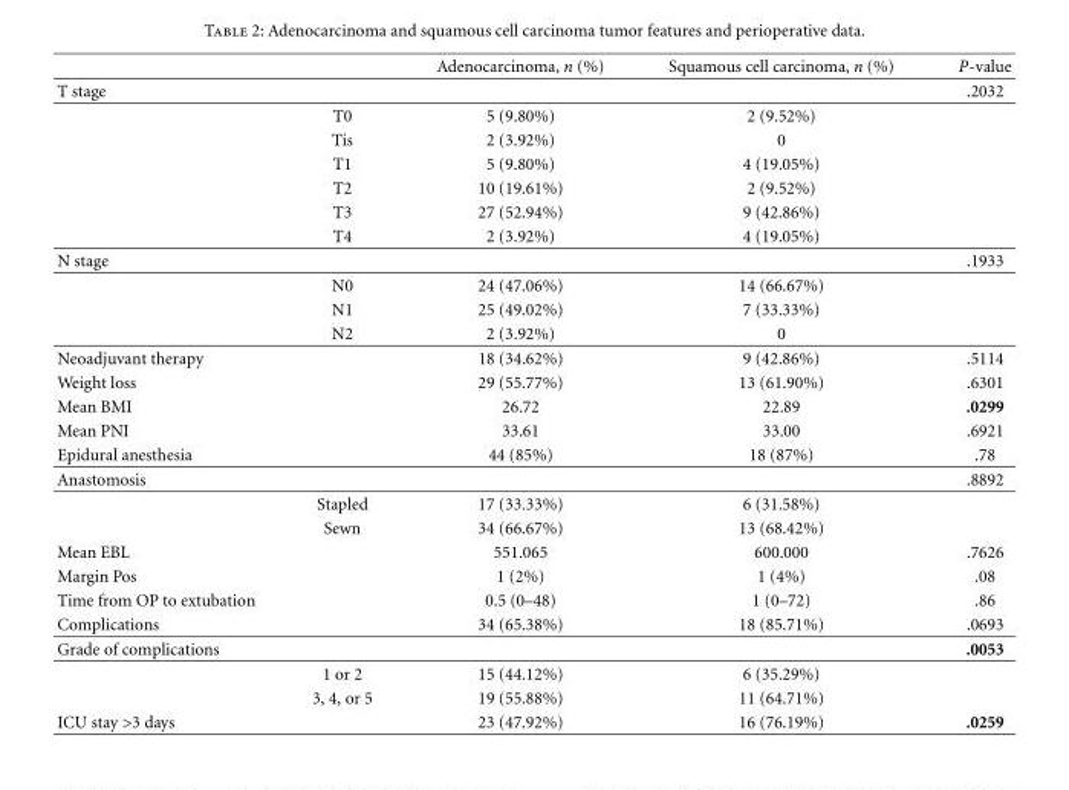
<table><thead><tr><td></td><td></td><td>Adenocarcinoma, n (%)</td><td>Squamous cell carcinoma, n (%)</td><td>P-value</td></tr></thead><tbody><tr><td rowspan="7">T stage</td><td></td><td></td><td></td><td>.2032</td></tr><tr><td>T0</td><td>5 (9.80%)</td><td>2 (9.52%)</td><td></td></tr><tr><td>Tis</td><td>2 (3.92%)</td><td>0</td><td></td></tr><tr><td>T1</td><td>5 (9.80%)</td><td>4 (19.05%)</td><td></td></tr><tr><td>T2</td><td>10 (19.61%)</td><td>2 (9.52%)</td><td></td></tr><tr><td>T3</td><td>27 (52.94%)</td><td>9 (42.86%)</td><td></td></tr><tr><td>T4</td><td>2 (3.92%)</td><td>4 (19.05%)</td><td></td></tr><tr><td rowspan="4">N stage</td><td></td><td></td><td></td><td>.1933</td></tr><tr><td>N0</td><td>24 (47.06%)</td><td>14 (66.67%)</td><td></td></tr><tr><td>N1</td><td>25 (49.02%)</td><td>7 (33.33%)</td><td></td></tr><tr><td>N2</td><td>2 (3.92%)</td><td>0</td><td></td></tr><tr><td>Neoadjuvant therapy</td><td></td><td>18 (34.62%)</td><td>9 (42.86%)</td><td>.5114</td></tr><tr><td>Weight loss</td><td></td><td>29 (55.77%)</td><td>13 (61.90%)</td><td>.6301</td></tr><tr><td>Mean BMI</td><td></td><td>26.72</td><td>22.89</td><td>.0299</td></tr><tr><td>Mean PNI</td><td></td><td>33.61</td><td>33.00</td><td>.6921</td></tr><tr><td>Epidural anesthesia</td><td></td><td>44 (85%)</td><td>18 (87%)</td><td>.78</td></tr><tr><td rowspan="3">Anastomosis</td><td></td><td></td><td></td><td>.8892</td></tr><tr><td>Stapled</td><td>17 (33.33%)</td><td>6 (31.58%)</td><td></td></tr><tr><td>Sewn</td><td>34 (66.67%)</td><td>13 (68.42%)</td><td></td></tr><tr><td>Mean EBL</td><td></td><td>551.065</td><td>600.000</td><td>.7626</td></tr><tr><td>Margin Pos</td><td></td><td>1 (2%)</td><td>1 (4%)</td><td>.08</td></tr><tr><td>Time from OP to extubation</td><td></td><td>0.5 (0–48)</td><td>1 (0–72)</td><td>.86</td></tr><tr><td>Complications</td><td></td><td>34 (65.38%)</td><td>18 (85.71%)</td><td>.0693</td></tr><tr><td rowspan="3">Grade of complications</td><td></td><td></td><td></td><td>.0053</td></tr><tr><td>1 or 2</td><td>15 (44.12%)</td><td>6 (35.29%)</td><td></td></tr><tr><td>3, 4, or 5</td><td>19 (55.88%)</td><td>11 (64.71%)</td><td></td></tr><tr><td>ICU stay &gt;3 days</td><td></td><td>23 (47.92%)</td><td>16 (76.19%)</td><td>.0259</td></tr></tbody></table>